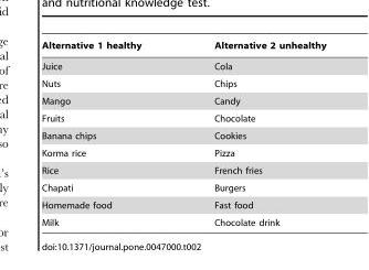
<table><thead><tr><td>Alternative 1 healthy</td><td>Alternative 2 unhealthy</td></tr></thead><tbody><tr><td>Juice</td><td>Cola</td></tr><tr><td>Nuts</td><td>Chips</td></tr><tr><td>Mango</td><td>Candy</td></tr><tr><td>Fruits</td><td>Chocolate</td></tr><tr><td>Banana chips</td><td>Cookies</td></tr><tr><td>Korma rice</td><td>Pizza</td></tr><tr><td>Rice</td><td>French fries</td></tr><tr><td>Chapati</td><td>Burgers</td></tr><tr><td>Homemade food</td><td>Fast food</td></tr><tr><td>Milk</td><td>Chocolate drink</td></tr></tbody></table>